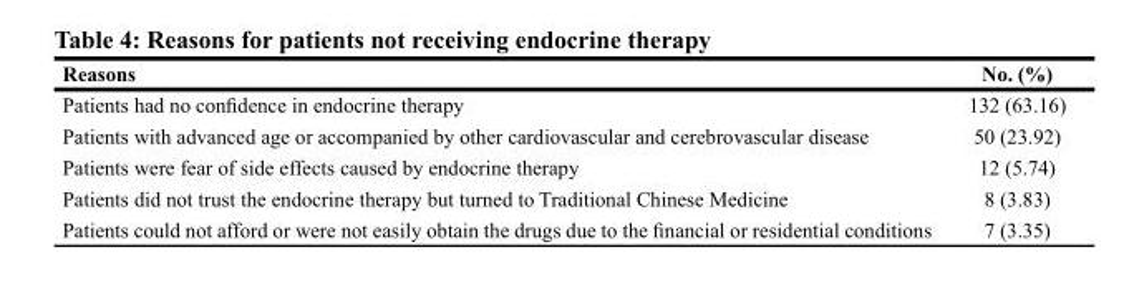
<table><thead><tr><td>Reasons</td><td>No. (%)</td></tr></thead><tbody><tr><td>Patients had no confidence in endocrine therapy</td><td>132 (63.16)</td></tr><tr><td>Patients with advanced age or accompanied by other cardiovascular and cerebrovascular disease</td><td>50 (23.92)</td></tr><tr><td>Patients were fear of side effects caused by endocrine therapy</td><td>12 (5.74)</td></tr><tr><td>Patients did not trust the endocrine therapy but turned to Traditional Chinese Medicine</td><td>8 (3.83)</td></tr><tr><td>Patients could not afford or were not easily obtain the drugs due to the financial or residential conditions</td><td>7 (3.35)</td></tr></tbody></table>